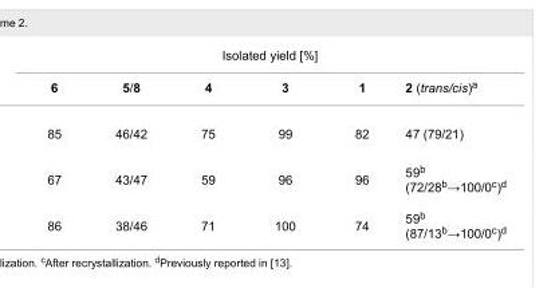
<table><tbody><tr><td colspan="6">Isolated yield [%]</td></tr><tr><td>6</td><td>5/8</td><td>4</td><td>3</td><td>1</td><td>2 (trans/cis)<sup>a</sup></td></tr><tr><td>85</td><td>46/42</td><td>75</td><td>99</td><td>82</td><td>47 (79/21)</td></tr><tr><td>67</td><td>43/47</td><td>59</td><td>96</td><td>96</td><td>59<sup>b</sup> (72/28<sup>b</sup>→100/0<sup>c</sup>)<sup>d</sup></td></tr><tr><td>86</td><td>38/46</td><td>71</td><td>100</td><td>74</td><td>59<sup>b</sup> (87/13<sup>b</sup>→100/0<sup>c</sup>)<sup>d</sup></td></tr></tbody></table>